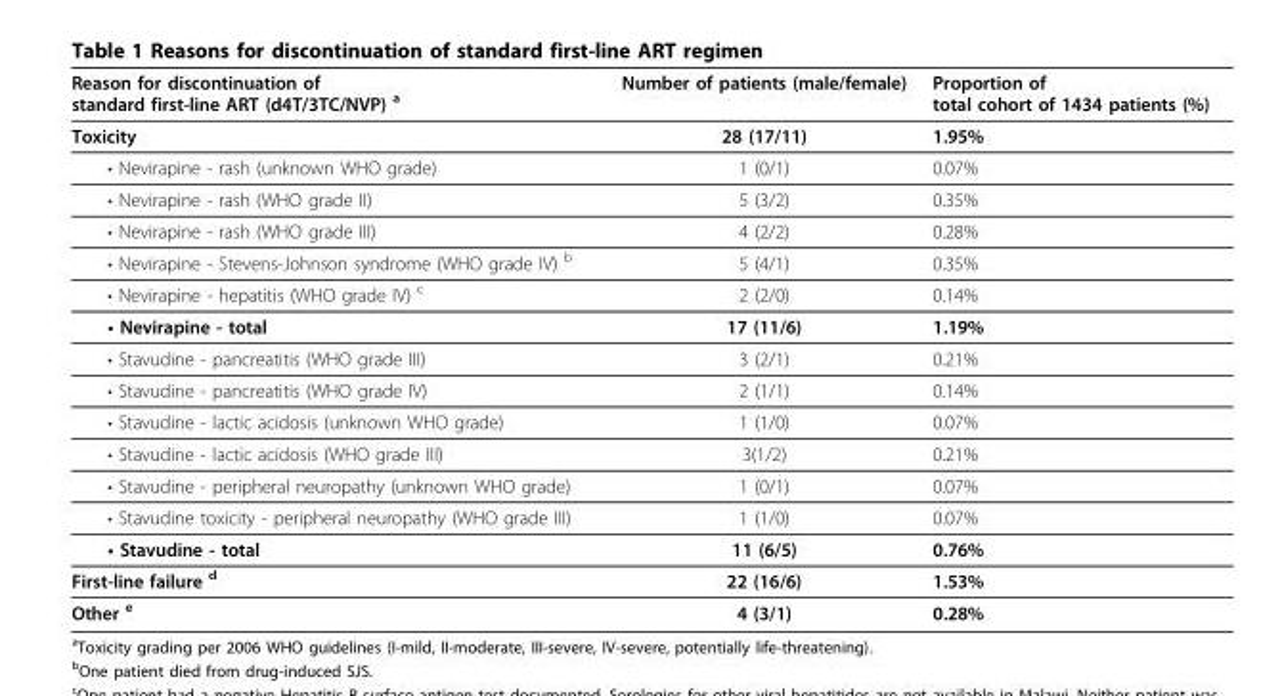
<table><thead><tr><td>Reason for discontinuation of standard first-line ART (d4T/3TC/NVP) <sup>a</sup></td><td>Number of patients (male/female)</td><td>Proportion of total cohort of 1434 patients (%)</td></tr></thead><tbody><tr><td>Toxicity</td><td>28 (17/11)</td><td>1.95%</td></tr><tr><td>• Nevirapine - rash (unknown WHO grade)</td><td>1 (0/1)</td><td>0.07%</td></tr><tr><td>• Nevirapine - rash (WHO grade II)</td><td>5 (3/2)</td><td>0.35%</td></tr><tr><td>• Nevirapine - rash (WHO grade III)</td><td>4 (2/2)</td><td>0.28%</td></tr><tr><td>• Nevirapine - Stevens-Johnson syndrome (WHO grade IV) <sup>b</sup></td><td>5 (4/1)</td><td>0.35%</td></tr><tr><td>• Nevirapine - hepatitis (WHO grade IV) <sup>c</sup></td><td>2 (2/0)</td><td>0.14%</td></tr><tr><td>• Nevirapine - total</td><td>17 (11/6)</td><td>1.19%</td></tr><tr><td>• Stavudine - pancreatitis (WHO grade III)</td><td>3 (2/1)</td><td>0.21%</td></tr><tr><td>• Stavudine - pancreatitis (WHO grade IV)</td><td>2 (1/1)</td><td>0.14%</td></tr><tr><td>• Stavudine - lactic acidosis (unknown WHO grade)</td><td>1 (1/0)</td><td>0.07%</td></tr><tr><td>• Stavudine - lactic acidosis (WHO grade III)</td><td>3(1/2)</td><td>0.21%</td></tr><tr><td>• Stavudine - peripheral neuropathy (unknown WHO grade)</td><td>1 (0/1)</td><td>0.07%</td></tr><tr><td>• Stavudine toxicity - peripheral neuropathy (WHO grade III)</td><td>1 (1/0)</td><td>0.07%</td></tr><tr><td>• Stavudine - total</td><td>11 (6/5)</td><td>0.76%</td></tr><tr><td>First-line failure <sup>d</sup></td><td>22 (16/6)</td><td>1.53%</td></tr><tr><td>Other <sup>e</sup></td><td>4 (3/1)</td><td>0.28%</td></tr></tbody></table>